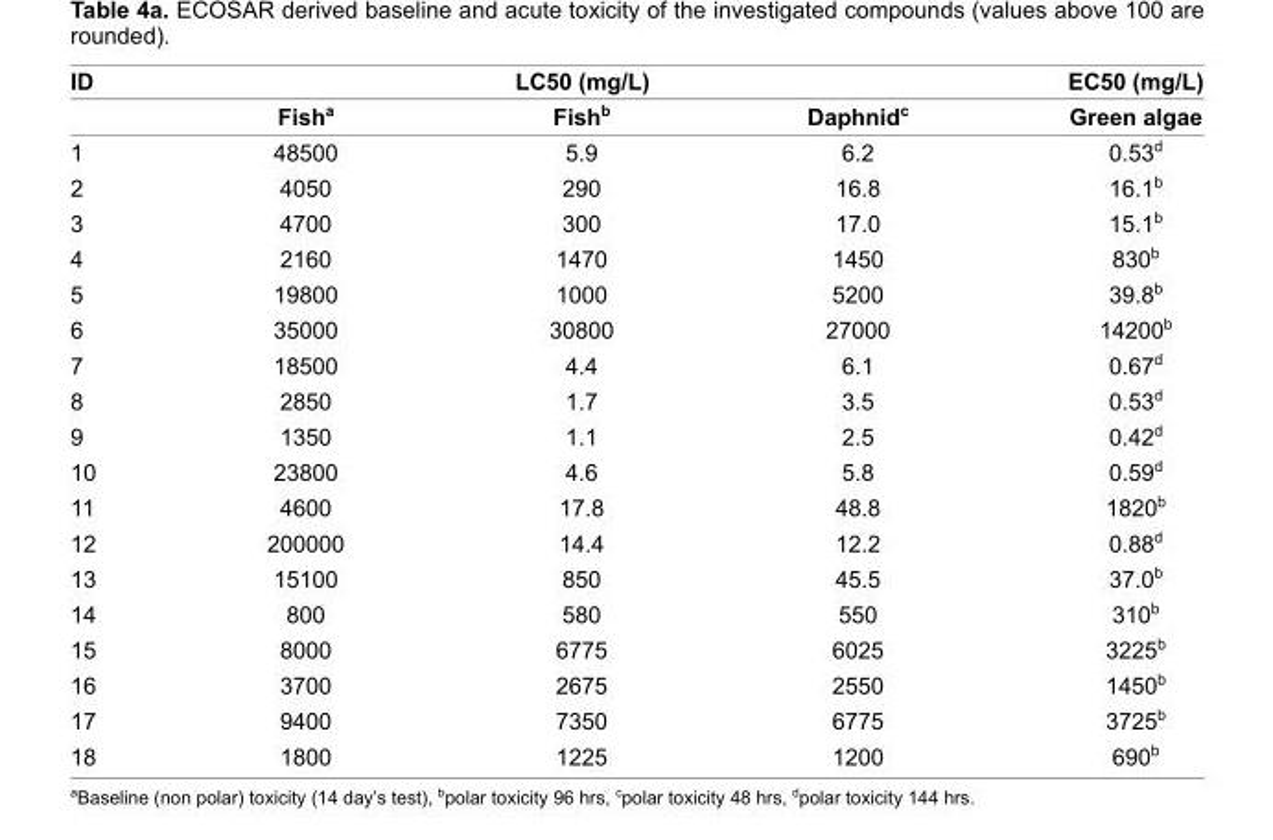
<table><thead><tr><td rowspan="2">ID</td><td colspan="3">LC50 (mg/L)</td><td rowspan="2">EC50 (mg/L) Green algae</td></tr><tr><td>Fish<sup>a</sup></td><td>Fish<sup>b</sup></td><td>Daphnid<sup>c</sup></td></tr></thead><tbody><tr><td>1</td><td>48500</td><td>5.9</td><td>6.2</td><td>0.53<sup>d</sup></td></tr><tr><td>2</td><td>4050</td><td>290</td><td>16.8</td><td>16.1<sup>b</sup></td></tr><tr><td>3</td><td>4700</td><td>300</td><td>17.0</td><td>15.1<sup>b</sup></td></tr><tr><td>4</td><td>2160</td><td>1470</td><td>1450</td><td>830<sup>b</sup></td></tr><tr><td>5</td><td>19800</td><td>1000</td><td>5200</td><td>39.8<sup>b</sup></td></tr><tr><td>6</td><td>35000</td><td>30800</td><td>27000</td><td>14200<sup>b</sup></td></tr><tr><td>7</td><td>18500</td><td>4.4</td><td>6.1</td><td>0.67<sup>d</sup></td></tr><tr><td>8</td><td>2850</td><td>1.7</td><td>3.5</td><td>0.53<sup>d</sup></td></tr><tr><td>9</td><td>1350</td><td>1.1</td><td>2.5</td><td>0.42<sup>d</sup></td></tr><tr><td>10</td><td>23800</td><td>4.6</td><td>5.8</td><td>0.59<sup>d</sup></td></tr><tr><td>11</td><td>4600</td><td>17.8</td><td>48.8</td><td>1820<sup>b</sup></td></tr><tr><td>12</td><td>200000</td><td>14.4</td><td>12.2</td><td>0.88<sup>d</sup></td></tr><tr><td>13</td><td>15100</td><td>850</td><td>45.5</td><td>37.0<sup>b</sup></td></tr><tr><td>14</td><td>800</td><td>580</td><td>550</td><td>310<sup>b</sup></td></tr><tr><td>15</td><td>8000</td><td>6775</td><td>6025</td><td>3225<sup>b</sup></td></tr><tr><td>16</td><td>3700</td><td>2675</td><td>2550</td><td>1450<sup>b</sup></td></tr><tr><td>17</td><td>9400</td><td>7350</td><td>6775</td><td>3725<sup>b</sup></td></tr><tr><td>18</td><td>1800</td><td>1225</td><td>1200</td><td>690<sup>b</sup></td></tr></tbody></table>